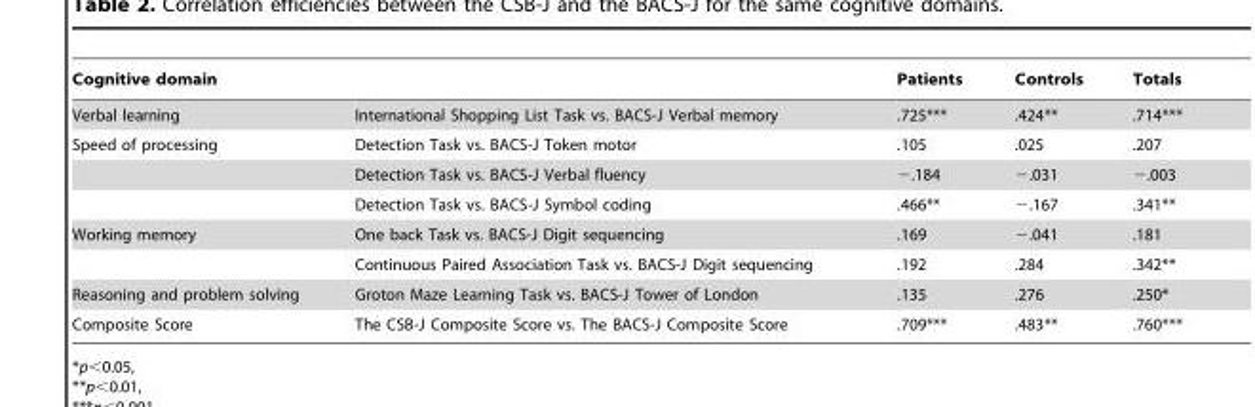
<table><thead><tr><td>Cognitive domain</td><td></td><td>Patients</td><td>Controls</td><td>Totals</td></tr></thead><tbody><tr><td>Verbal learning</td><td>International Shopping List Task vs. BACS-J Verbal memory</td><td>.725***</td><td>.424**</td><td>.714***</td></tr><tr><td rowspan="3">Speed of processing</td><td>Detection Task vs. BACS-J Token motor</td><td>.105</td><td>.025</td><td>.207</td></tr><tr><td>Detection Task vs. BACS-J Verbal fluency</td><td>−.184</td><td>−.031</td><td>−.003</td></tr><tr><td>Detection Task vs. BACS-J Symbol coding</td><td>.466**</td><td>−.167</td><td>.341**</td></tr><tr><td rowspan="2">Working memory</td><td>One back Task vs. BACS-J Digit sequencing</td><td>.169</td><td>−.041</td><td>.181</td></tr><tr><td>Continuous Paired Association Task vs. BACS-J Digit sequencing</td><td>.192</td><td>.284</td><td>.342**</td></tr><tr><td>Reasoning and problem solving</td><td>Groton Maze Learning Task vs. BACS-J Tower of London</td><td>.135</td><td>.276</td><td>.250*</td></tr><tr><td>Composite Score</td><td>The CSB-J Composite Score vs. The BACS-J Composite Score</td><td>.709***</td><td>.483**</td><td>.760***</td></tr></tbody></table>